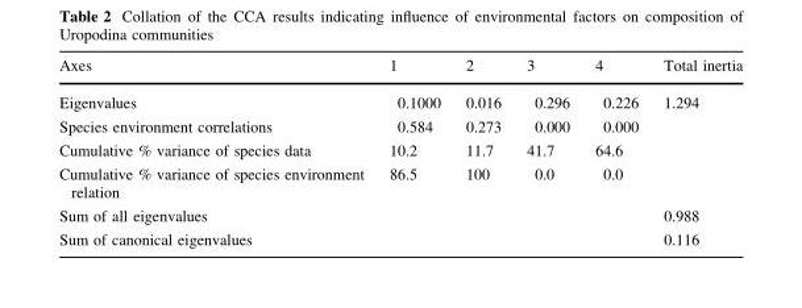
<table><thead><tr><td>Axes</td><td>1</td><td>2</td><td>3</td><td>4</td><td>Total inertia</td></tr></thead><tbody><tr><td>Eigenvalues</td><td>0.1000</td><td>0.016</td><td>0.296</td><td>0.226</td><td>1.294</td></tr><tr><td>Species environment correlations</td><td>0.584</td><td>0.273</td><td>0.000</td><td>0.000</td><td></td></tr><tr><td>Cumulative % variance of species data</td><td>10.2</td><td>11.7</td><td>41.7</td><td>64.6</td><td></td></tr><tr><td>Cumulative % variance of species environment relation</td><td>86.5</td><td>100</td><td>0.0</td><td>0.0</td><td></td></tr><tr><td>Sum of all eigenvalues</td><td></td><td></td><td></td><td></td><td>0.988</td></tr><tr><td>Sum of canonical eigenvalues</td><td></td><td></td><td></td><td></td><td>0.116</td></tr></tbody></table>